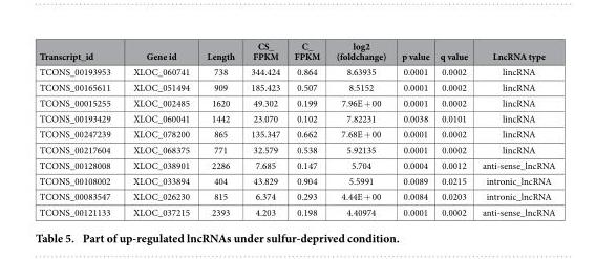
<table><thead><tr><td>Transcript_id</td><td>Gene id</td><td>Length</td><td>CS_ FPKM</td><td>C_ FPKM</td><td>log2 (foldchange)</td><td>p value</td><td>q value</td><td>LncRNA type</td></tr></thead><tbody><tr><td>TCONS_00193953</td><td>XLOC_060741</td><td>738</td><td>344.424</td><td>0.864</td><td>8.63935</td><td>0.0001</td><td>0.0002</td><td>lincRNA</td></tr><tr><td>TCONS_00165611</td><td>XLOC_051494</td><td>909</td><td>185.423</td><td>0.507</td><td>8.5152</td><td>0.0001</td><td>0.0002</td><td>lincRNA</td></tr><tr><td>TCONS_00015255</td><td>XLOC_002485</td><td>1620</td><td>49.302</td><td>0.199</td><td>7.96E + 00</td><td>0.0001</td><td>0.0002</td><td>lincRNA</td></tr><tr><td>TCONS_00193429</td><td>XLOC_060041</td><td>1442</td><td>23.070</td><td>0.102</td><td>7.82231</td><td>0.0038</td><td>0.0101</td><td>lincRNA</td></tr><tr><td>TCONS_00247239</td><td>XLOC_078200</td><td>865</td><td>135.347</td><td>0.662</td><td>7.68E + 00</td><td>0.0001</td><td>0.0002</td><td>lincRNA</td></tr><tr><td>TCONS_00217604</td><td>XLOC_068375</td><td>771</td><td>32.579</td><td>0.538</td><td>5.92135</td><td>0.0001</td><td>0.0002</td><td>lincRNA</td></tr><tr><td>TCONS_00128008</td><td>XLOC_038901</td><td>2286</td><td>7.685</td><td>0.147</td><td>5.704</td><td>0.0004</td><td>0.0012</td><td>anti-sense_lncRNA</td></tr><tr><td>TCONS_00108002</td><td>XLOC_033894</td><td>404</td><td>43.829</td><td>0.904</td><td>5.5991</td><td>0.0089</td><td>0.0215</td><td>intronic_lncRNA</td></tr><tr><td>TCONS_00083547</td><td>XLOC_026230</td><td>815</td><td>6.374</td><td>0.293</td><td>4.44E + 00</td><td>0.0084</td><td>0.0203</td><td>intronic_lncRNA</td></tr><tr><td>TCONS_00121133</td><td>XLOC_037215</td><td>2393</td><td>4.203</td><td>0.198</td><td>4.40974</td><td>0.0001</td><td>0.0002</td><td>anti-sense_lncRNA</td></tr></tbody></table>